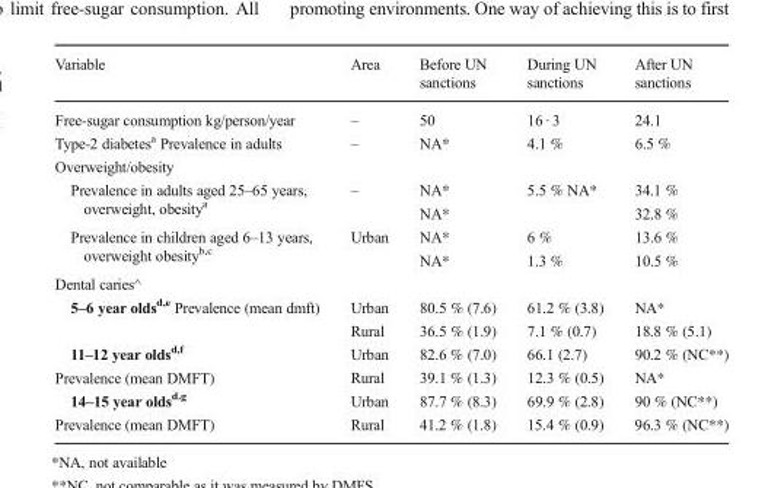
<table><thead><tr><td>Variable</td><td>Area</td><td>Before UN sanctions</td><td>During UN sanctions</td><td>After UN sanctions</td></tr></thead><tbody><tr><td>Free-sugar consumption kg/person/year</td><td>–</td><td>50</td><td>16 · 3</td><td>24.1</td></tr><tr><td>Type-2 diabetes<sup>a</sup> Prevalence in adults</td><td>–</td><td>NA*</td><td>4.1 %</td><td>6.5 %</td></tr><tr><td colspan="5">Overweight/obesity</td></tr><tr><td>Prevalence in adults aged 25–65 years, overweight, obesity<sup>a</sup></td><td>–</td><td>NA* NA*</td><td>5.5 % NA*</td><td>34.1 % 32.8 %</td></tr><tr><td>Prevalence in children aged 6–13 years, overweight obesity<sup>b,c</sup></td><td>Urban</td><td>NA* NA*</td><td>6 % 1.3 %</td><td>13.6 % 10.5 %</td></tr><tr><td colspan="5">Dental caries^</td></tr><tr><td rowspan="2">5–6 year olds<sup>d,e</sup> Prevalence (mean dmft)</td><td>Urban</td><td>80.5 % (7.6)</td><td>61.2 % (3.8)</td><td>NA*</td></tr><tr><td>Rural</td><td>36.5 % (1.9)</td><td>7.1 % (0.7)</td><td>18.8 % (5.1)</td></tr><tr><td rowspan="2">11–12 year olds<sup>d,f</sup> Prevalence (mean DMFT)</td><td>Urban</td><td>82.6 % (7.0)</td><td>66.1 (2.7)</td><td>90.2 % (NC**)</td></tr><tr><td>Rural</td><td>39.1 % (1.3)</td><td>12.3 % (0.5)</td><td>NA*</td></tr><tr><td rowspan="2">14–15 year olds<sup>d.g</sup> Prevalence (mean DMFT)</td><td>Urban</td><td>87.7 % (8.3)</td><td>69.9 % (2.8)</td><td>90 % (NC**)</td></tr><tr><td>Rural</td><td>41.2 % (1.8)</td><td>15.4 % (0.9)</td><td>96.3 % (NC**)</td></tr></tbody></table>